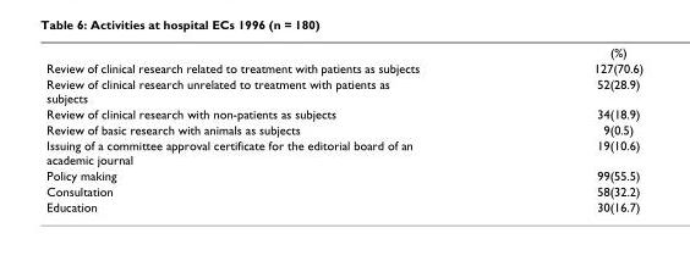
<table><thead><tr><td></td><td>(%)</td></tr></thead><tbody><tr><td>Review of clinical research related to treatment with patients as subjects</td><td>127(70.6)</td></tr><tr><td>Review of clinical research unrelated to treatment with patients as subjects</td><td>52(28.9)</td></tr><tr><td>Review of clinical research with non-patients as subjects</td><td>34(18.9)</td></tr><tr><td>Review of basic research with animals as subjects</td><td>9(0.5)</td></tr><tr><td>Issuing of a committee approval certificate for the editorial board of an academic journal</td><td>19(10.6)</td></tr><tr><td>Policy making</td><td>99(55.5)</td></tr><tr><td>Consultation</td><td>58(32.2)</td></tr><tr><td>Education</td><td>30(16.7)</td></tr></tbody></table>